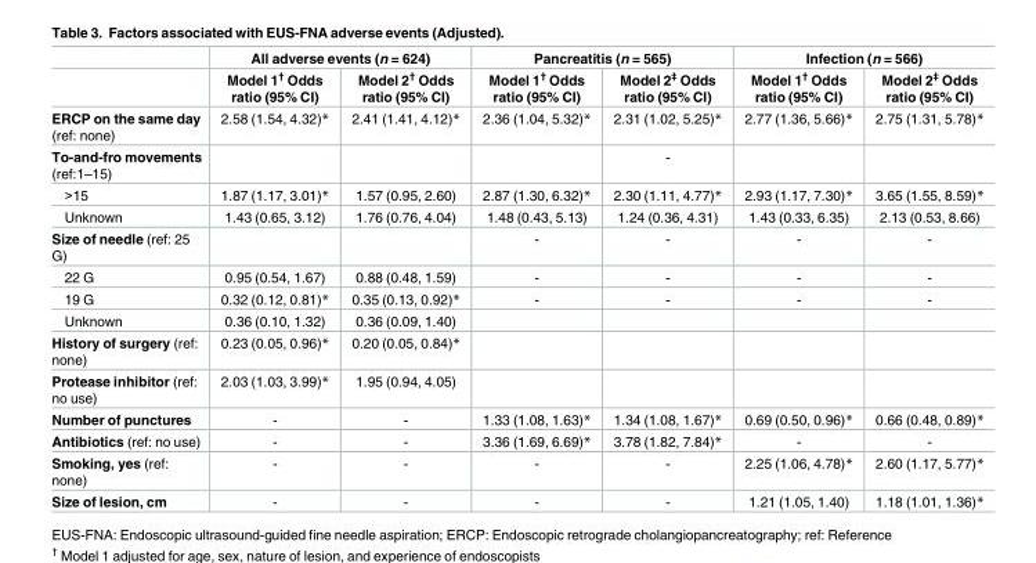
<table><thead><tr><td rowspan="2"></td><td colspan="2">All adverse events (n = 624)</td><td colspan="2">Pancreatitis (n = 565)</td><td colspan="2">Infection (n = 566)</td></tr><tr><td>Model 1<sup>†</sup> Odds ratio (95% CI)</td><td>Model 2<sup>†</sup> Odds ratio (95% CI)</td><td>Model 1<sup>†</sup> Odds ratio (95% CI)</td><td>Model 2<sup>‡</sup> Odds ratio (95% CI)</td><td>Model 1<sup>†</sup> Odds ratio (95% CI)</td><td>Model 2<sup>‡</sup> Odds ratio (95% CI)</td></tr></thead><tbody><tr><td>ERCP on the same day (ref: none)</td><td>2.58 (1.54, 4.32)*</td><td>2.41 (1.41, 4.12)*</td><td>2.36 (1.04, 5.32)*</td><td>2.31 (1.02, 5.25)*</td><td>2.77 (1.36, 5.66)*</td><td>2.75 (1.31, 5.78)*</td></tr><tr><td>To-and-fro movements (ref:1–15)</td><td></td><td></td><td></td><td>-</td><td></td><td></td></tr><tr><td>&gt;15</td><td>1.87 (1.17, 3.01)*</td><td>1.57 (0.95, 2.60)</td><td>2.87 (1.30, 6.32)*</td><td>2.30 (1.11, 4.77)*</td><td>2.93 (1.17, 7.30)*</td><td>3.65 (1.55, 8.59)*</td></tr><tr><td>Unknown</td><td>1.43 (0.65, 3.12)</td><td>1.76 (0.76, 4.04)</td><td>1.48 (0.43, 5.13)</td><td>1.24 (0.36, 4.31)</td><td>1.43 (0.33, 6.35)</td><td>2.13 (0.53, 8.66)</td></tr><tr><td>Size of needle (ref: 25 G)</td><td></td><td></td><td>-</td><td>-</td><td>-</td><td>-</td></tr><tr><td>22 G</td><td>0.95 (0.54, 1.67)</td><td>0.88 (0.48, 1.59)</td><td>-</td><td>-</td><td>-</td><td>-</td></tr><tr><td>19 G</td><td>0.32 (0.12, 0.81)*</td><td>0.35 (0.13, 0.92)*</td><td>-</td><td>-</td><td>-</td><td>-</td></tr><tr><td>Unknown</td><td>0.36 (0.10, 1.32)</td><td>0.36 (0.09, 1.40)</td><td></td><td></td><td></td><td></td></tr><tr><td>History of surgery (ref: none)</td><td>0.23 (0.05, 0.96)*</td><td>0.20 (0.05, 0.84)*</td><td></td><td></td><td></td><td></td></tr><tr><td>Protease inhibitor (ref: no use)</td><td>2.03 (1.03, 3.99)*</td><td>1.95 (0.94, 4.05)</td><td></td><td></td><td></td><td></td></tr><tr><td>Number of punctures</td><td>-</td><td>-</td><td>1.33 (1.08, 1.63)*</td><td>1.34 (1.08, 1.67)*</td><td>0.69 (0.50, 0.96)*</td><td>0.66 (0.48, 0.89)*</td></tr><tr><td>Antibiotics (ref: no use)</td><td>-</td><td>-</td><td>3.36 (1.69, 6.69)*</td><td>3.78 (1.82, 7.84)*</td><td>-</td><td>-</td></tr><tr><td>Smoking, yes (ref: none)</td><td>-</td><td>-</td><td>-</td><td>-</td><td>2.25 (1.06, 4.78)*</td><td>2.60 (1.17, 5.77)*</td></tr><tr><td>Size of lesion, cm</td><td>-</td><td>-</td><td>-</td><td>-</td><td>1.21 (1.05, 1.40)</td><td>1.18 (1.01, 1.36)*</td></tr></tbody></table>